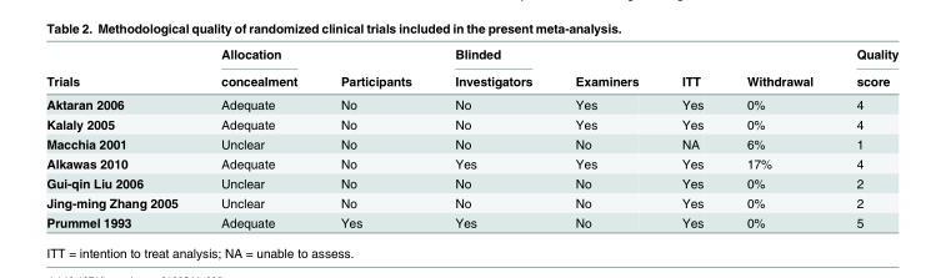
<table><thead><tr><td rowspan="2">Trials</td><td rowspan="2">Allocation concealment</td><td rowspan="2">Participants</td><td rowspan="2">Blinded Investigators</td><td rowspan="2">Examiners</td><td rowspan="2">ITT</td><td rowspan="2">Withdrawal</td><td rowspan="2">Quality score</td></tr><tr></tr></thead><tbody><tr><td>Aktaran 2006</td><td>Adequate</td><td>No</td><td>No</td><td>Yes</td><td>Yes</td><td>0%</td><td>4</td></tr><tr><td>Kalaly 2005</td><td>Adequate</td><td>No</td><td>No</td><td>Yes</td><td>Yes</td><td>0%</td><td>4</td></tr><tr><td>Macchia 2001</td><td>Unclear</td><td>No</td><td>No</td><td>No</td><td>NA</td><td>6%</td><td>1</td></tr><tr><td>Alkawas 2010</td><td>Adequate</td><td>No</td><td>Yes</td><td>Yes</td><td>Yes</td><td>17%</td><td>4</td></tr><tr><td>Gui-qin Liu 2006</td><td>Unclear</td><td>No</td><td>No</td><td>No</td><td>Yes</td><td>0%</td><td>2</td></tr><tr><td>Jing-ming Zhang 2005</td><td>Unclear</td><td>No</td><td>No</td><td>No</td><td>Yes</td><td>0%</td><td>2</td></tr><tr><td>Prummel 1993</td><td>Adequate</td><td>Yes</td><td>Yes</td><td>No</td><td>Yes</td><td>0%</td><td>5</td></tr></tbody></table>